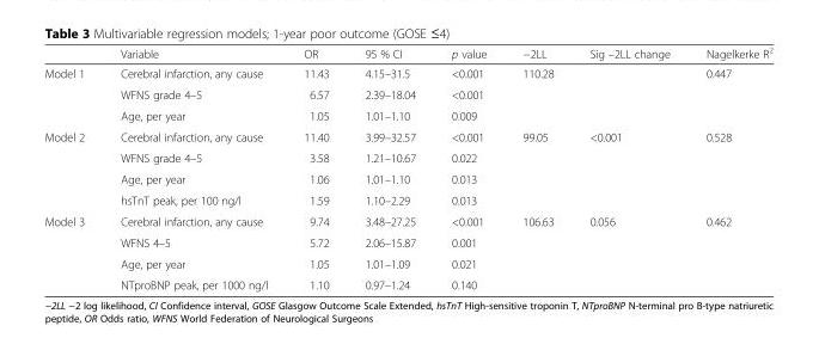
<table><thead><tr><td></td><td>Variable</td><td>OR</td><td>95 % CI</td><td>p value</td><td>−2LL</td><td>Sig –2LL change</td><td>Nagelkerke R<sup>2</sup></td></tr></thead><tbody><tr><td rowspan="3">Model 1</td><td>Cerebral infarction, any cause</td><td>11.43</td><td>4.15–31.5</td><td>&lt;0.001</td><td rowspan="3">110.28</td><td rowspan="3"></td><td rowspan="3">0.447</td></tr><tr><td>WFNS grade 4–5</td><td>6.57</td><td>2.39–18.04</td><td>&lt;0.001</td></tr><tr><td>Age, per year</td><td>1.05</td><td>1.01–1.10</td><td>0.009</td></tr><tr><td rowspan="4">Model 2</td><td>Cerebral infarction, any cause</td><td>11.40</td><td>3.99–32.57</td><td>&lt;0.001</td><td rowspan="4">99.05</td><td rowspan="4">&lt;0.001</td><td rowspan="4">0.528</td></tr><tr><td>WFNS grade 4–5</td><td>3.58</td><td>1.21–10.67</td><td>0.022</td></tr><tr><td>Age, per year</td><td>1.06</td><td>1.01–1.10</td><td>0.013</td></tr><tr><td>hsTnT peak, per 100 ng/l</td><td>1.59</td><td>1.10–2.29</td><td>0.013</td></tr><tr><td rowspan="4">Model 3</td><td>Cerebral infarction, any cause</td><td>9.74</td><td>3.48–27.25</td><td>&lt;0.001</td><td rowspan="4">106.63</td><td rowspan="4">0.056</td><td rowspan="4">0.462</td></tr><tr><td>WFNS 4–5</td><td>5.72</td><td>2.06–15.87</td><td>0.001</td></tr><tr><td>Age, per year</td><td>1.05</td><td>1.01–1.09</td><td>0.021</td></tr><tr><td>NTproBNP peak, per 1000 ng/l</td><td>1.10</td><td>0.97–1.24</td><td>0.140</td></tr></tbody></table>